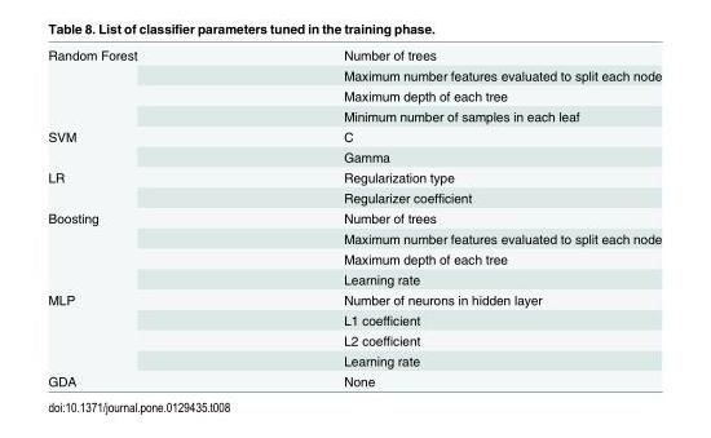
<table><tbody><tr><td rowspan="4">Random Forest</td><td>Number of trees</td></tr><tr><td>Maximum number features evaluated to split each node</td></tr><tr><td>Maximum depth of each tree</td></tr><tr><td>Minimum number of samples in each leaf</td></tr><tr><td rowspan="2">SVM</td><td>C</td></tr><tr><td>Gamma</td></tr><tr><td rowspan="2">LR</td><td>Regularization type</td></tr><tr><td>Regularizer coefficient</td></tr><tr><td rowspan="4">Boosting</td><td>Number of trees</td></tr><tr><td>Maximum number features evaluated to split each node</td></tr><tr><td>Maximum depth of each tree</td></tr><tr><td>Learning rate</td></tr><tr><td rowspan="4">MLP</td><td>Number of neurons in hidden layer</td></tr><tr><td>L1 coefficient</td></tr><tr><td>L2 coefficient</td></tr><tr><td>Learning rate</td></tr><tr><td>GDA</td><td>None</td></tr></tbody></table>